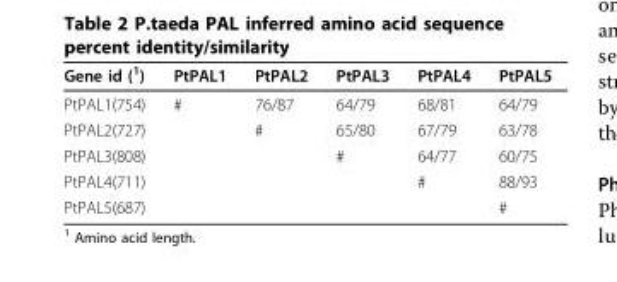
<table><thead><tr><td>Gene id (<sup>1</sup>)</td><td>PtPAL1</td><td>PtPAL2</td><td>PtPAL3</td><td>PtPAL4</td><td>PtPAL5</td></tr></thead><tbody><tr><td>PtPAL1(754)</td><td>#</td><td>76/87</td><td>64/79</td><td>68/81</td><td>64/79</td></tr><tr><td>PtPAL2(727)</td><td></td><td>#</td><td>65/80</td><td>67/79</td><td>63/78</td></tr><tr><td>PtPAL3(808)</td><td></td><td></td><td>#</td><td>64/77</td><td>60/75</td></tr><tr><td>PtPAL4(711)</td><td></td><td></td><td></td><td>#</td><td>88/93</td></tr><tr><td>PtPAL5(687)</td><td></td><td></td><td></td><td></td><td>#</td></tr></tbody></table>